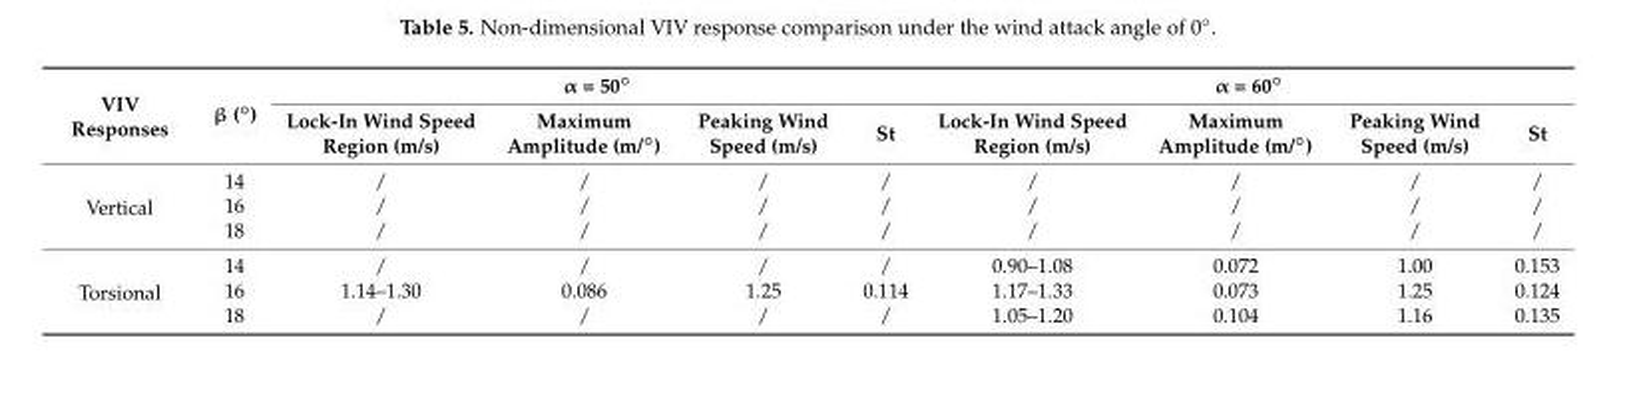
<table><thead><tr><td rowspan="2">VIV Responses</td><td rowspan="2">β (◦)</td><td colspan="4">α = 50◦</td><td colspan="4">α = 60◦</td></tr><tr><td>Lock-In Wind Speed Region (m/s)</td><td>Maximum Amplitude (m/◦)</td><td>Peaking Wind Speed (m/s)</td><td>St</td><td>Lock-In Wind Speed Region (m/s)</td><td>Maximum Amplitude (m/◦)</td><td>Peaking Wind Speed (m/s)</td><td>St</td></tr></thead><tbody><tr><td rowspan="3">Vertical</td><td>14</td><td>/</td><td>/</td><td>/</td><td>/</td><td>/</td><td>/</td><td>/</td><td>/</td></tr><tr><td>16</td><td>/</td><td>/</td><td>/</td><td>/</td><td>/</td><td>/</td><td>/</td><td>/</td></tr><tr><td>18</td><td>/</td><td>/</td><td>/</td><td>/</td><td>/</td><td>/</td><td>/</td><td>/</td></tr><tr><td rowspan="3">Torsional</td><td>14</td><td>/</td><td>/</td><td>/</td><td>/</td><td>0.90–1.08</td><td>0.072</td><td>1.00</td><td>0.153</td></tr><tr><td>16</td><td>1.14–1.30</td><td>0.086</td><td>1.25</td><td>0.114</td><td>1.17–1.33</td><td>0.073</td><td>1.25</td><td>0.124</td></tr><tr><td>18</td><td>/</td><td>/</td><td>/</td><td>/</td><td>1.05–1.20</td><td>0.104</td><td>1.16</td><td>0.135</td></tr></tbody></table>